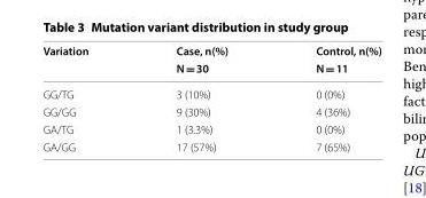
<table><thead><tr><td rowspan="2">Variation</td><td rowspan="2">Case, n(%) N = 30</td><td rowspan="2">Control, n(%) N = 11</td></tr><tr></tr></thead><tbody><tr><td>GG/TG</td><td>3 (10%)</td><td>0 (0%)</td></tr><tr><td>GG/GG</td><td>9 (30%)</td><td>4 (36%)</td></tr><tr><td>GA/TG</td><td>1 (3.3%)</td><td>0 (0%)</td></tr><tr><td>GA/GG</td><td>17 (57%)</td><td>7 (65%)</td></tr></tbody></table>